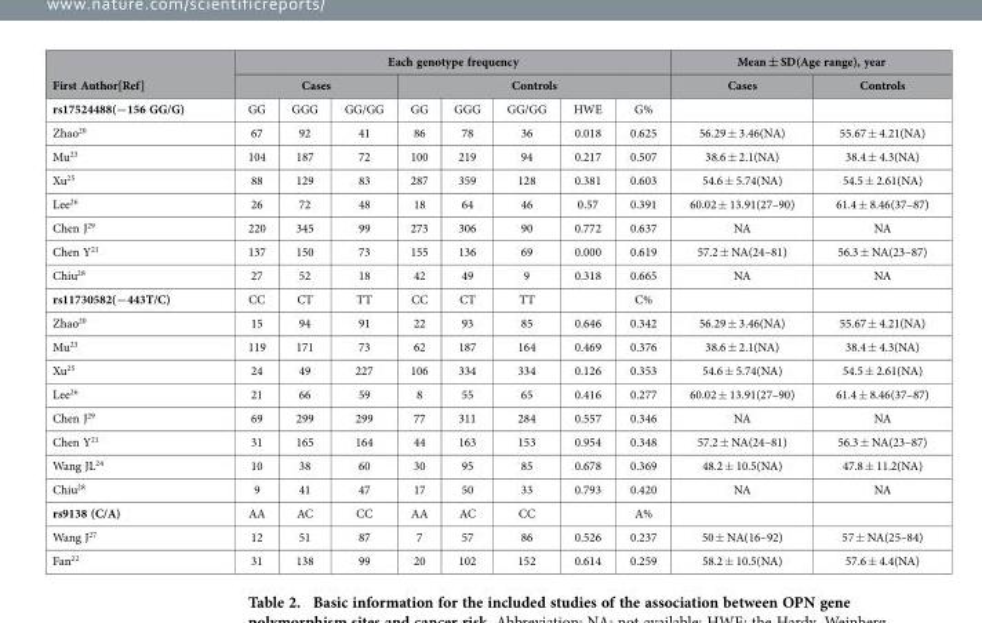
<table><thead><tr><td rowspan="3">First Author[Ref] rs17524488(−156 GG/G)</td><td colspan="8">Each genotype frequency</td><td colspan="2">Mean ± SD(Age range), year</td></tr><tr><td colspan="3">Cases</td><td colspan="5">Controls</td><td rowspan="2">Cases</td><td rowspan="2">Controls</td></tr><tr><td>GG</td><td>GGG</td><td>GG/GG</td><td>GG</td><td>GGG</td><td>GG/GG</td><td>HWE</td><td>G%</td></tr></thead><tbody><tr><td>Zhao<sup>20</sup></td><td>67</td><td>92</td><td>41</td><td>86</td><td>78</td><td>36</td><td>0.018</td><td>0.625</td><td>56.29 ± 3.46(NA)</td><td>55.67 ± 4.21(NA)</td></tr><tr><td>Mu<sup>23</sup></td><td>104</td><td>187</td><td>72</td><td>100</td><td>219</td><td>94</td><td>0.217</td><td>0.507</td><td>38.6 ± 2.1(NA)</td><td>38.4 ± 4.3(NA)</td></tr><tr><td>Xu<sup>25</sup></td><td>88</td><td>129</td><td>83</td><td>287</td><td>359</td><td>128</td><td>0.381</td><td>0.603</td><td>54.6 ± 5.74(NA)</td><td>54.5 ± 2.61(NA)</td></tr><tr><td>Lee<sup>26</sup></td><td>26</td><td>72</td><td>48</td><td>18</td><td>64</td><td>46</td><td>0.57</td><td>0.391</td><td>60.02 ± 13.91(27–90)</td><td>61.4 ± 8.46(37–87)</td></tr><tr><td>Chen J<sup>29</sup></td><td>220</td><td>345</td><td>99</td><td>273</td><td>306</td><td>90</td><td>0.772</td><td>0.637</td><td>NA</td><td>NA</td></tr><tr><td>Chen Y<sup>21</sup></td><td>137</td><td>150</td><td>73</td><td>155</td><td>136</td><td>69</td><td>0.000</td><td>0.619</td><td>57.2 ± NA(24–81)</td><td>56.3 ± NA(23–87)</td></tr><tr><td>Chiu<sup>28</sup></td><td>27</td><td>52</td><td>18</td><td>42</td><td>49</td><td>9</td><td>0.318</td><td>0.665</td><td>NA</td><td>NA</td></tr><tr><td>rs11730582(−443T/C)</td><td>CC</td><td>CT</td><td>TT</td><td>CC</td><td>CT</td><td>TT</td><td></td><td>C%</td><td></td><td></td></tr><tr><td>Zhao<sup>20</sup></td><td>15</td><td>94</td><td>91</td><td>22</td><td>93</td><td>85</td><td>0.646</td><td>0.342</td><td>56.29 ± 3.46(NA)</td><td>55.67 ± 4.21(NA)</td></tr><tr><td>Mu<sup>23</sup></td><td>119</td><td>171</td><td>73</td><td>62</td><td>187</td><td>164</td><td>0.469</td><td>0.376</td><td>38.6 ± 2.1(NA)</td><td>38.4 ± 4.3(NA)</td></tr><tr><td>Xu<sup>25</sup></td><td>24</td><td>49</td><td>227</td><td>106</td><td>334</td><td>334</td><td>0.126</td><td>0.353</td><td>54.6 ± 5.74(NA)</td><td>54.5 ± 2.61(NA)</td></tr><tr><td>Lee<sup>26</sup></td><td>21</td><td>66</td><td>59</td><td>8</td><td>55</td><td>65</td><td>0.416</td><td>0.277</td><td>60.02 ± 13.91(27–90)</td><td>61.4 ± 8.46(37–87)</td></tr><tr><td>Chen J<sup>29</sup></td><td>69</td><td>299</td><td>299</td><td>77</td><td>311</td><td>284</td><td>0.557</td><td>0.346</td><td>NA</td><td>NA</td></tr><tr><td>Chen Y<sup>21</sup></td><td>31</td><td>165</td><td>164</td><td>44</td><td>163</td><td>153</td><td>0.954</td><td>0.348</td><td>57.2 ± NA(24–81)</td><td>56.3 ± NA(23–87)</td></tr><tr><td>Wang JL<sup>24</sup></td><td>10</td><td>38</td><td>60</td><td>30</td><td>95</td><td>85</td><td>0.678</td><td>0.369</td><td>48.2 ± 10.5(NA)</td><td>47.8 ± 11.2(NA)</td></tr><tr><td>Chiu<sup>28</sup></td><td>9</td><td>41</td><td>47</td><td>17</td><td>50</td><td>33</td><td>0.793</td><td>0.420</td><td>NA</td><td>NA</td></tr><tr><td>rs9138 (C/A)</td><td>AA</td><td>AC</td><td>CC</td><td>AA</td><td>AC</td><td>CC</td><td></td><td>A%</td><td></td><td></td></tr><tr><td>Wang J<sup>27</sup></td><td>12</td><td>51</td><td>87</td><td>7</td><td>57</td><td>86</td><td>0.526</td><td>0.237</td><td>50 ± NA(16–92)</td><td>57 ± NA(25–84)</td></tr><tr><td>Fan<sup>22</sup></td><td>31</td><td>138</td><td>99</td><td>20</td><td>102</td><td>152</td><td>0.614</td><td>0.259</td><td>58.2 ± 10.5(NA)</td><td>57.6 ± 4.4(NA)</td></tr></tbody></table>